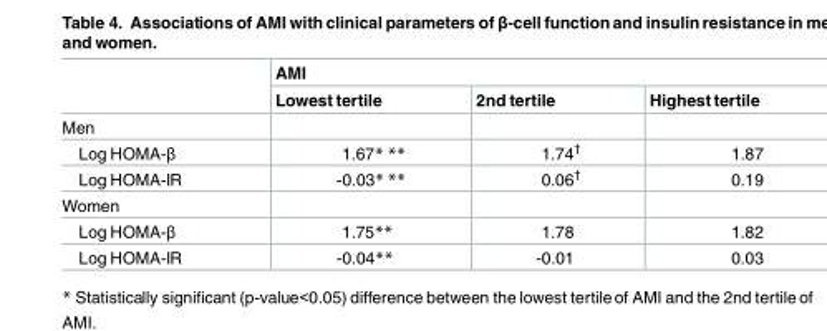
<table><thead><tr><td rowspan="2"></td><td colspan="3">AMI</td></tr><tr><td>Lowest tertile</td><td>2nd tertile</td><td>Highest tertile</td></tr></thead><tbody><tr><td colspan="4">Men</td></tr><tr><td>Log HOMA-β</td><td>1.67* **</td><td>1.74<sup>†</sup></td><td>1.87</td></tr><tr><td>Log HOMA-IR</td><td>-0.03* **</td><td>0.06<sup>†</sup></td><td>0.19</td></tr><tr><td colspan="4">Women</td></tr><tr><td>Log HOMA-β</td><td>1.75**</td><td>1.78</td><td>1.82</td></tr><tr><td>Log HOMA-IR</td><td>-0.04**</td><td>-0.01</td><td>0.03</td></tr></tbody></table>